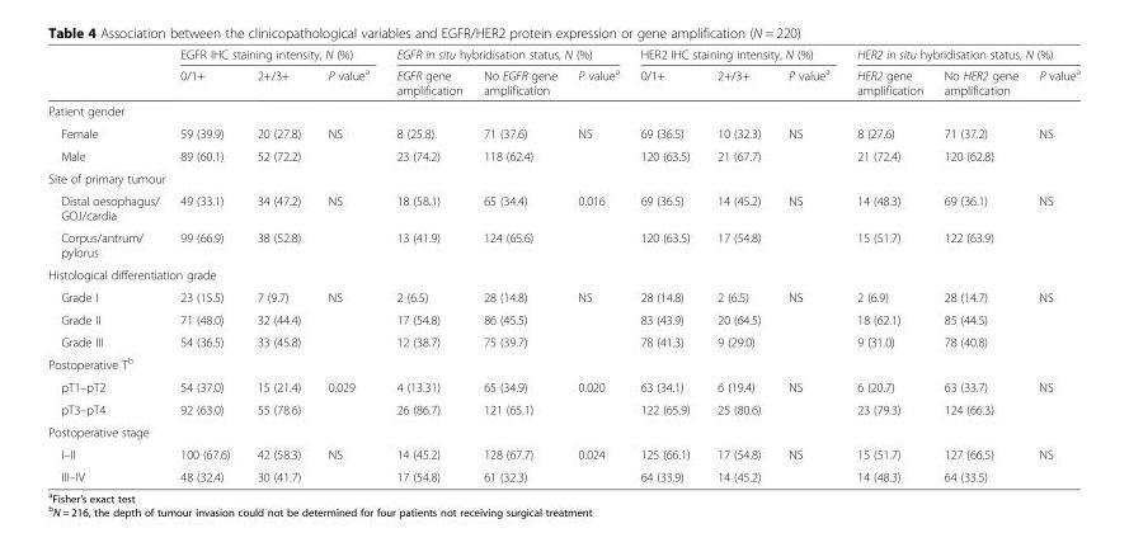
<table><thead><tr><td rowspan="2"></td><td colspan="3">EGFR IHC staining intensity, N (%)</td><td colspan="3">EGFR in situ hybridisation status, N (%)</td><td colspan="3">HER2 IHC staining intensity, N (%)</td><td colspan="3">HER2 in situ hybridisation status, N (%)</td></tr><tr><td>0/1+</td><td>2+/3+</td><td>P value<sup>a</sup></td><td>EGFR gene amplification</td><td>No EGFR gene amplification</td><td>P value<sup>a</sup></td><td>0/1+</td><td>2+/3+</td><td>P value<sup>a</sup></td><td>HER2 gene amplification</td><td>No HER2 gene amplification</td><td>P value<sup>a</sup></td></tr></thead><tbody><tr><td colspan="13">Patient gender</td></tr><tr><td>Female</td><td>59 (39.9)</td><td>20 (27.8)</td><td>NS</td><td>8 (25.8)</td><td>71 (37.6)</td><td>NS</td><td>69 (36.5)</td><td>10 (32.3)</td><td>NS</td><td>8 (27.6)</td><td>71 (37.2)</td><td>NS</td></tr><tr><td>Male</td><td>89 (60.1)</td><td>52 (72.2)</td><td></td><td>23 (74.2)</td><td>118 (62.4)</td><td></td><td>120 (63.5)</td><td>21 (67.7)</td><td></td><td>21 (72.4)</td><td>120 (62.8)</td><td></td></tr><tr><td colspan="13">Site of primary tumour</td></tr><tr><td>Distal oesophagus/ GOJ/cardia</td><td>49 (33.1)</td><td>34 (47.2)</td><td>NS</td><td>18 (58.1)</td><td>65 (34.4)</td><td>0.016</td><td>69 (36.5)</td><td>14 (45.2)</td><td>NS</td><td>14 (48.3)</td><td>69 (36.1)</td><td>NS</td></tr><tr><td>Corpus/antrum/ pylorus</td><td>99 (66.9)</td><td>38 (52.8)</td><td></td><td>13 (41.9)</td><td>124 (65.6)</td><td></td><td>120 (63.5)</td><td>17 (54.8)</td><td></td><td>15 (51.7)</td><td>122 (63.9)</td><td></td></tr><tr><td colspan="13">Histological differentiation grade</td></tr><tr><td>Grade I</td><td>23 (15.5)</td><td>7 (9.7)</td><td>NS</td><td>2 (6.5)</td><td>28 (14.8)</td><td>NS</td><td>28 (14.8)</td><td>2 (6.5)</td><td>NS</td><td>2 (6.9)</td><td>28 (14.7)</td><td>NS</td></tr><tr><td>Grade II</td><td>71 (48.0)</td><td>32 (44.4)</td><td></td><td>17 (54.8)</td><td>86 (45.5)</td><td></td><td>83 (43.9)</td><td>20 (64.5)</td><td></td><td>18 (62.1)</td><td>85 (44.5)</td><td></td></tr><tr><td>Grade III</td><td>54 (36.5)</td><td>33 (45.8)</td><td></td><td>12 (38.7)</td><td>75 (39.7)</td><td></td><td>78 (41.3)</td><td>9 (29.0)</td><td></td><td>9 (31.0)</td><td>78 (40.8)</td><td></td></tr><tr><td colspan="13">Postoperative T<sup>b</sup></td></tr><tr><td>pT1–pT2</td><td>54 (37.0)</td><td>15 (21.4)</td><td>0.029</td><td>4 (13.31)</td><td>65 (34.9)</td><td>0.020</td><td>63 (34.1)</td><td>6 (19.4)</td><td>NS</td><td>6 (20.7)</td><td>63 (33.7)</td><td>NS</td></tr><tr><td>pT3–pT4</td><td>92 (63.0)</td><td>55 (78.6)</td><td></td><td>26 (86.7)</td><td>121 (65.1)</td><td></td><td>122 (65.9)</td><td>25 (80.6)</td><td></td><td>23 (79.3)</td><td>124 (66.3)</td><td></td></tr><tr><td colspan="13">Postoperative stage</td></tr><tr><td>I–II</td><td>100 (67.6)</td><td>42 (58.3)</td><td>NS</td><td>14 (45.2)</td><td>128 (67.7)</td><td>0.024</td><td>125 (66.1)</td><td>17 (54.8)</td><td>NS</td><td>15 (51.7)</td><td>127 (66.5)</td><td>NS</td></tr><tr><td>III–IV</td><td>48 (32.4)</td><td>30 (41.7)</td><td></td><td>17 (54.8)</td><td>61 (32.3)</td><td></td><td>64 (33.9)</td><td>14 (45.2)</td><td></td><td>14 (48.3)</td><td>64 (33.5)</td><td></td></tr></tbody></table>